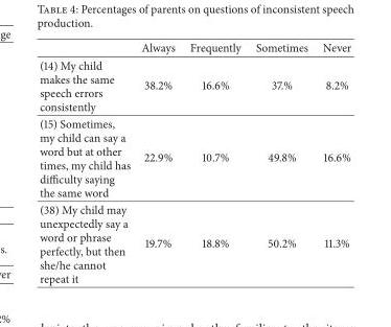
<table><thead><tr><td></td><td>Always</td><td>Frequently</td><td>Sometimes</td><td>Never</td></tr></thead><tbody><tr><td>(14) My child makes the same speech errors consistently</td><td>38.2%</td><td>16.6%</td><td>37.%</td><td>8.2%</td></tr><tr><td>(15) Sometimes, my child can say a word but at other times, my child has difficulty saying the same word</td><td>22.9%</td><td>10.7%</td><td>49.8%</td><td>16.6%</td></tr><tr><td>(38) My child may unexpectedly say a word or phrase perfectly, but then she/he cannot repeat it</td><td>19.7%</td><td>18.8%</td><td>50.2%</td><td>11.3%</td></tr></tbody></table>